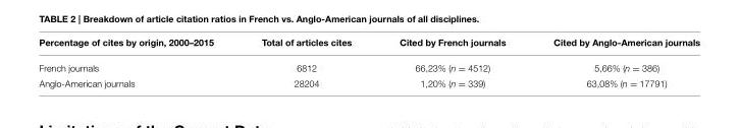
<table><thead><tr><td>Percentage of cites by origin, 2000–2015</td><td>Total of articles cites</td><td>Cited by French journals</td><td>Cited by Anglo-American journals</td></tr></thead><tbody><tr><td>French journals</td><td>6812</td><td>66,23% (n = 4512)</td><td>5,66% (n = 386)</td></tr><tr><td>Anglo-American journals</td><td>28204</td><td>1,20% (n = 339)</td><td>63,08% (n = 17791)</td></tr></tbody></table>